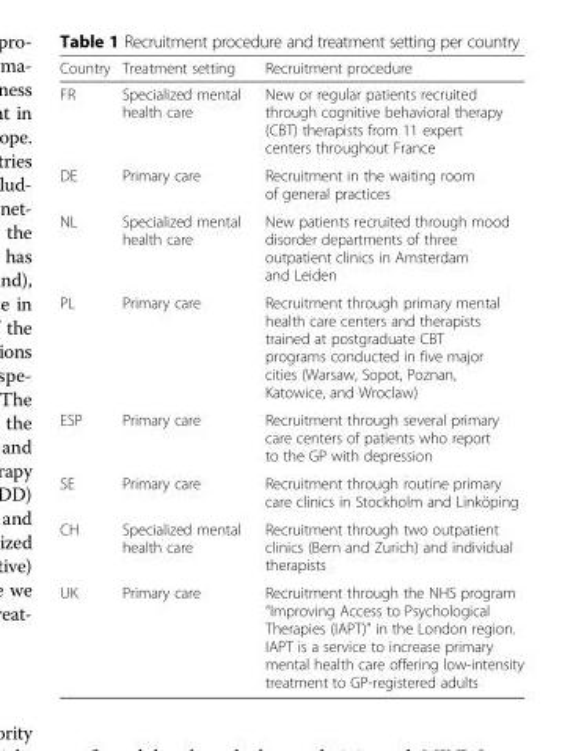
<table><thead><tr><td>Country</td><td>Treatment setting</td><td>Recruitment procedure</td></tr></thead><tbody><tr><td>FR</td><td>Specialized mental health care</td><td>New or regular patients recruited through cognitive behavioral therapy (CBT) therapists from 11 expert centers throughout France</td></tr><tr><td>DE</td><td>Primary care</td><td>Recruitment in the waiting room of general practices</td></tr><tr><td>NL</td><td>Specialized mental health care</td><td>New patients recruited through mood disorder departments of three outpatient clinics in Amsterdam and Leiden</td></tr><tr><td>PL</td><td>Primary care</td><td>Recruitment through primary mental health care centers and therapists trained at postgraduate CBT programs conducted in five major cities (Warsaw, Sopot, Poznan, Katowice, and Wroclaw)</td></tr><tr><td>ESP</td><td>Primary care</td><td>Recruitment through several primary care centers of patients who report to the GP with depression</td></tr><tr><td>SE</td><td>Primary care</td><td>Recruitment through routine primary care clinics in Stockholm and Linköping</td></tr><tr><td>CH</td><td>Specialized mental health care</td><td>Recruitment through two outpatient clinics (Bern and Zurich) and individual therapists</td></tr><tr><td>UK</td><td>Primary care</td><td>Recruitment through the NHS program “Improving Access to Psychological Therapies (IAPT)” in the London region. IAPT is a service to increase primary mental health care offering low-intensity treatment to GP-registered adults</td></tr></tbody></table>